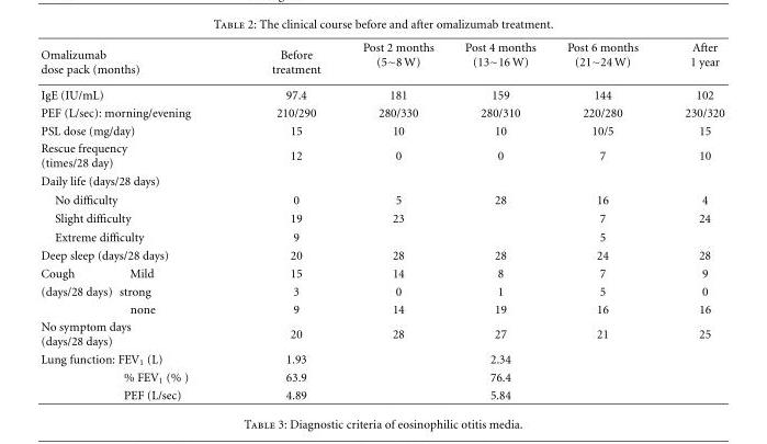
<table><thead><tr><td>Omalizumab dose pack (months)</td><td>Before treatment</td><td>Post 2 months (5∼8 W)</td><td>Post 4 months (13∼16 W)</td><td>Post 6 months (21∼24 W)</td><td>After 1 year</td></tr></thead><tbody><tr><td>IgE (IU/mL)</td><td>97.4</td><td>181</td><td>159</td><td>144</td><td>102</td></tr><tr><td>PEF (L/sec): morning/evening</td><td>210/290</td><td>280/330</td><td>280/310</td><td>220/280</td><td>230/320</td></tr><tr><td>PSL dose (mg/day)</td><td>15</td><td>10</td><td>10</td><td>10/5</td><td>15</td></tr><tr><td>Rescue frequency (times/28 day)</td><td>12</td><td>0</td><td>0</td><td>7</td><td>10</td></tr><tr><td colspan="6">Daily life (days/28 days)</td></tr><tr><td>No difficulty</td><td>0</td><td>5</td><td>28</td><td>16</td><td>4</td></tr><tr><td>Slight difficulty</td><td>19</td><td>23</td><td></td><td>7</td><td>24</td></tr><tr><td>Extreme difficulty</td><td>9</td><td></td><td></td><td>5</td><td></td></tr><tr><td>Deep sleep (days/28 days)</td><td>20</td><td>28</td><td>28</td><td>24</td><td>28</td></tr><tr><td>Cough Mild</td><td>15</td><td>14</td><td>8</td><td>7</td><td>9</td></tr><tr><td>(days/28 days) strong</td><td>3</td><td>0</td><td>1</td><td>5</td><td>0</td></tr><tr><td>none</td><td>9</td><td>14</td><td>19</td><td>16</td><td>16</td></tr><tr><td>No symptom days (days/28 days)</td><td>20</td><td>28</td><td>27</td><td>21</td><td>25</td></tr><tr><td>Lung function: FEV<sub>1</sub> (L)</td><td>1.93</td><td></td><td>2.34</td><td></td><td></td></tr><tr><td>% FEV<sub>1</sub> (% )</td><td>63.9</td><td></td><td>76.4</td><td></td><td></td></tr><tr><td>PEF (L/sec)</td><td>4.89</td><td></td><td>5.84</td><td></td><td></td></tr></tbody></table>